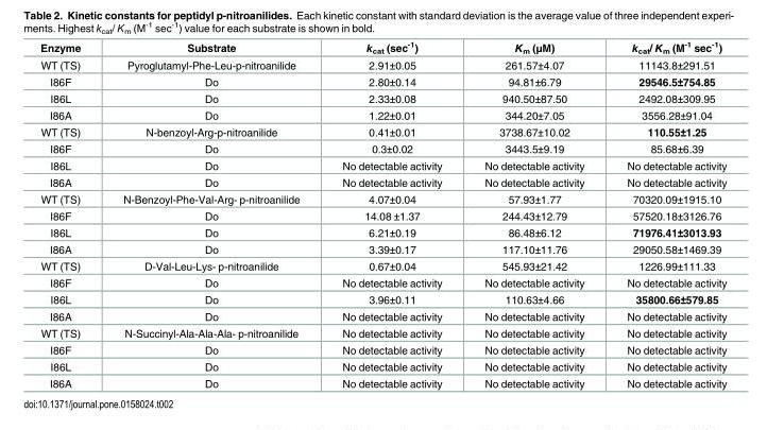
<table><thead><tr><td>Enzyme</td><td>Substrate</td><td>k<sub>cat</sub> (sec<sup>-1</sup>)</td><td>K<sub>m</sub> (μM)</td><td>k<sub>cat</sub>/ K<sub>m</sub> (M<sup>-1</sup> sec<sup>-1</sup>)</td></tr></thead><tbody><tr><td>WT (TS)</td><td>Pyroglutamyl-Phe-Leu-p-nitroanilide</td><td>2.91±0.05</td><td>261.57±4.07</td><td>11143.8±291.51</td></tr><tr><td>I86F</td><td>Do</td><td>2.80±0.14</td><td>94.81±6.79</td><td>29546.5±754.85</td></tr><tr><td>I86L</td><td>Do</td><td>2.33±0.08</td><td>940.50±87.50</td><td>2492.08±309.95</td></tr><tr><td>I86A</td><td>Do</td><td>1.22±0.01</td><td>344.20±7.05</td><td>3556.28±91.04</td></tr><tr><td>WT (TS)</td><td>N-benzoyl-Arg-p-nitroanilide</td><td>0.41±0.01</td><td>3738.67±10.02</td><td>110.55±1.25</td></tr><tr><td>I86F</td><td>Do</td><td>0.3±0.02</td><td>3443.5±9.19</td><td>85.68±6.39</td></tr><tr><td>I86L</td><td>Do</td><td>No detectable activity</td><td>No detectable activity</td><td>No detectable activity</td></tr><tr><td>I86A</td><td>Do</td><td>No detectable activity</td><td>No detectable activity</td><td>No detectable activity</td></tr><tr><td>WT (TS)</td><td>N-Benzoyl-Phe-Val-Arg- p-nitroanilide</td><td>4.07±0.04</td><td>57.93±1.77</td><td>70320.09±1915.10</td></tr><tr><td>I86F</td><td>Do</td><td>14.08 ±1.37</td><td>244.43±12.79</td><td>57520.18±3126.76</td></tr><tr><td>I86L</td><td>Do</td><td>6.21±0.19</td><td>86.48±6.12</td><td>71976.41±3013.93</td></tr><tr><td>I86A</td><td>Do</td><td>3.39±0.17</td><td>117.10±11.76</td><td>29050.58±1469.39</td></tr><tr><td>WT (TS)</td><td>D-Val-Leu-Lys- p-nitroanilide</td><td>0.67±0.04</td><td>545.93±21.42</td><td>1226.99±111.33</td></tr><tr><td>I86F</td><td>Do</td><td>No detectable activity</td><td>No detectable activity</td><td>No detectable activity</td></tr><tr><td>I86L</td><td>Do</td><td>3.96±0.11</td><td>110.63±4.66</td><td>35800.66±579.85</td></tr><tr><td>I86A</td><td>Do</td><td>No detectable activity</td><td>No detectable activity</td><td>No detectable activity</td></tr><tr><td>WT (TS)</td><td>N-Succinyl-Ala-Ala-Ala- p-nitroanilide</td><td>No detectable activity</td><td>No detectable activity</td><td>No detectable activity</td></tr><tr><td>I86F</td><td>Do</td><td>No detectable activity</td><td>No detectable activity</td><td>No detectable activity</td></tr><tr><td>I86L</td><td>Do</td><td>No detectable activity</td><td>No detectable activity</td><td>No detectable activity</td></tr><tr><td>I86A</td><td>Do</td><td>No detectable activity</td><td>No detectable activity</td><td>No detectable activity</td></tr></tbody></table>